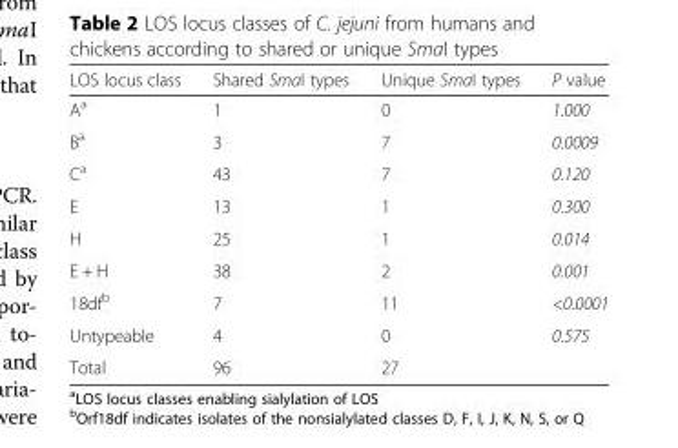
<table><thead><tr><td>LOS locus class</td><td>Shared SmaI types</td><td>Unique SmaI types</td><td>P value</td></tr></thead><tbody><tr><td>A<sup>a</sup></td><td>1</td><td>0</td><td>1.000</td></tr><tr><td>B<sup>a</sup></td><td>3</td><td>7</td><td>0.0009</td></tr><tr><td>C<sup>a</sup></td><td>43</td><td>7</td><td>0.120</td></tr><tr><td>E</td><td>13</td><td>1</td><td>0.300</td></tr><tr><td>H</td><td>25</td><td>1</td><td>0.014</td></tr><tr><td>E + H</td><td>38</td><td>2</td><td>0.001</td></tr><tr><td>18df<sup>b</sup></td><td>7</td><td>11</td><td>&lt;0.0001</td></tr><tr><td>Untypeable</td><td>4</td><td>0</td><td>0.575</td></tr><tr><td>Total</td><td>96</td><td>27</td><td></td></tr></tbody></table>